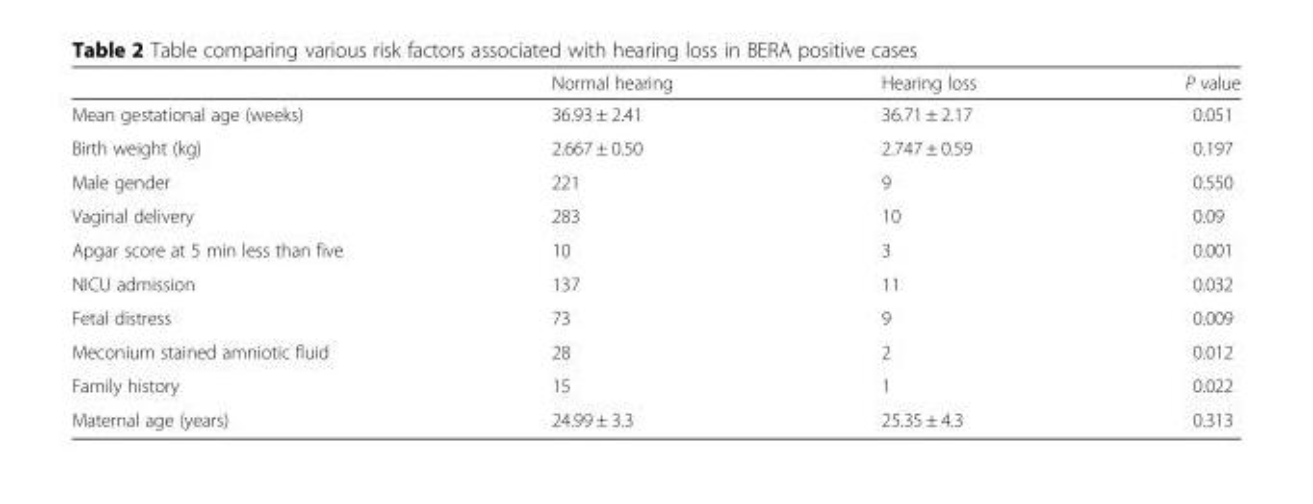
<table><thead><tr><td></td><td>Normal hearing</td><td>Hearing loss</td><td>P value</td></tr></thead><tbody><tr><td>Mean gestational age (weeks)</td><td>36.93 ± 2.41</td><td>36.71 ± 2.17</td><td>0.051</td></tr><tr><td>Birth weight (kg)</td><td>2.667 ± 0.50</td><td>2.747 ± 0.59</td><td>0.197</td></tr><tr><td>Male gender</td><td>221</td><td>9</td><td>0.550</td></tr><tr><td>Vaginal delivery</td><td>283</td><td>10</td><td>0.09</td></tr><tr><td>Apgar score at 5 min less than five</td><td>10</td><td>3</td><td>0.001</td></tr><tr><td>NICU admission</td><td>137</td><td>11</td><td>0.032</td></tr><tr><td>Fetal distress</td><td>73</td><td>9</td><td>0.009</td></tr><tr><td>Meconium stained amniotic fluid</td><td>28</td><td>2</td><td>0.012</td></tr><tr><td>Family history</td><td>15</td><td>1</td><td>0.022</td></tr><tr><td>Maternal age (years)</td><td>24.99 ± 3.3</td><td>25.35 ± 4.3</td><td>0.313</td></tr></tbody></table>